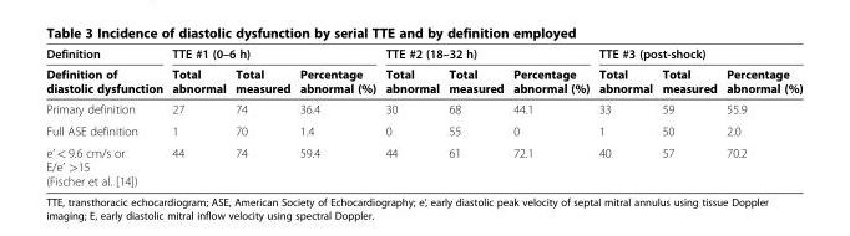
<table><thead><tr><td rowspan="2">Definition Definition of diastolic dysfunction</td><td colspan="3">TTE #1 (0–6 h)</td><td colspan="3">TTE #2 (18–32 h)</td><td colspan="3">TTE #3 (post-shock)</td></tr><tr><td>Total abnormal</td><td>Total measured</td><td>Percentage abnormal (%)</td><td>Total abnormal</td><td>Total measured</td><td>Percentage abnormal (%)</td><td>Total abnormal</td><td>Total measured</td><td>Percentage abnormal (%)</td></tr></thead><tbody><tr><td>Primary definition</td><td>27</td><td>74</td><td>36.4</td><td>30</td><td>68</td><td>44.1</td><td>33</td><td>59</td><td>55.9</td></tr><tr><td>Full ASE definition</td><td>1</td><td>70</td><td>1.4</td><td>0</td><td>55</td><td>0</td><td>1</td><td>50</td><td>2.0</td></tr><tr><td>e’ &lt; 9.6 cm/s or E/e’ &gt;15 (Fischer et al. [14])</td><td>44</td><td>74</td><td>59.4</td><td>44</td><td>61</td><td>72.1</td><td>40</td><td>57</td><td>70.2</td></tr></tbody></table>